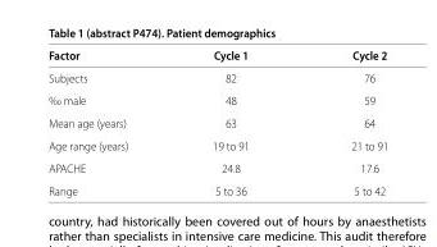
<table><thead><tr><td>Factor</td><td>Cycle 1</td><td>Cycle 2</td></tr></thead><tbody><tr><td>Subjects</td><td>82</td><td>76</td></tr><tr><td>‰ male</td><td>48</td><td>59</td></tr><tr><td>Mean age (years)</td><td>63</td><td>64</td></tr><tr><td>Age range (years)</td><td>19 to 91</td><td>21 to 91</td></tr><tr><td>APACHE</td><td>24.8</td><td>17.6</td></tr><tr><td>Range</td><td>5 to 36</td><td>5 to 42</td></tr></tbody></table>